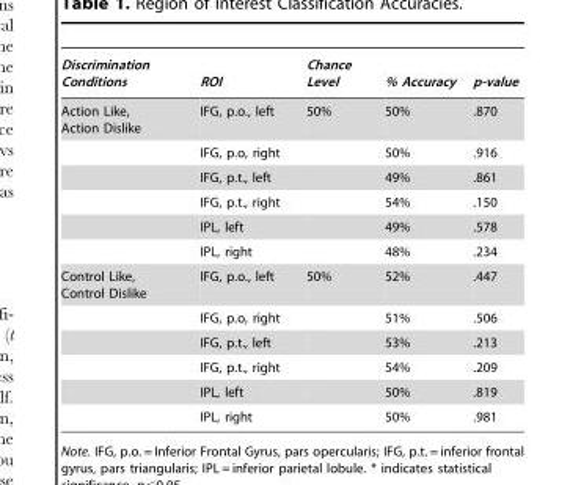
<table><thead><tr><td>Discrimination Conditions</td><td>ROI</td><td>Chance Level</td><td>% Accuracy</td><td>p-value</td></tr></thead><tbody><tr><td rowspan="6">Action Like, Action Dislike</td><td>IFG, p.o., left</td><td>50%</td><td>50%</td><td>.870</td></tr><tr><td>IFG, p.o, right</td><td></td><td>50%</td><td>.916</td></tr><tr><td>IFG, p.t., left</td><td></td><td>49%</td><td>.861</td></tr><tr><td>IFG, p.t., right</td><td></td><td>54%</td><td>.150</td></tr><tr><td>IPL, left</td><td></td><td>49%</td><td>.578</td></tr><tr><td>IPL, right</td><td></td><td>48%</td><td>.234</td></tr><tr><td rowspan="6">Control Like, Control Dislike</td><td>IFG, p.o., left</td><td>50%</td><td>52%</td><td>.447</td></tr><tr><td>IFG, p.o, right</td><td></td><td>51%</td><td>.506</td></tr><tr><td>IFG, p.t., left</td><td></td><td>53%</td><td>.213</td></tr><tr><td>IFG, p.t., right</td><td></td><td>54%</td><td>.209</td></tr><tr><td>IPL, left</td><td></td><td>50%</td><td>.819</td></tr><tr><td>IPL, right</td><td></td><td>50%</td><td>.981</td></tr></tbody></table>